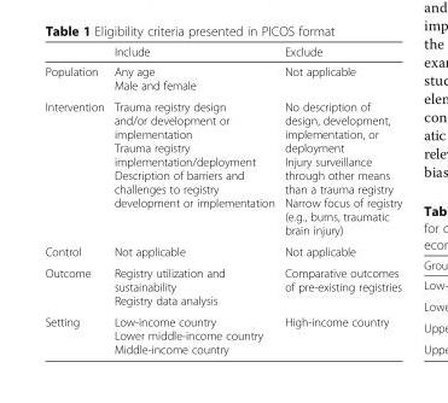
<table><thead><tr><td></td><td>Include</td><td>Exclude</td></tr></thead><tbody><tr><td>Population</td><td>Any age Male and female</td><td>Not applicable</td></tr><tr><td>Intervention</td><td>Trauma registry design and/or development or implementation Trauma registry implementation/deployment Description of barriers and challenges to registry development or implementation</td><td>No description of design, development, implementation, or deployment Injury surveillance through other means than a trauma registry Narrow focus of registry (e.g., burns, traumatic brain injury)</td></tr><tr><td>Control</td><td>Not applicable</td><td>Not applicable</td></tr><tr><td>Outcome</td><td>Registry utilization and sustainability Registry data analysis</td><td>Comparative outcomes of pre-existing registries</td></tr><tr><td>Setting</td><td>Low-income country Lower middle-income country Middle-income country</td><td>High-income country</td></tr></tbody></table>